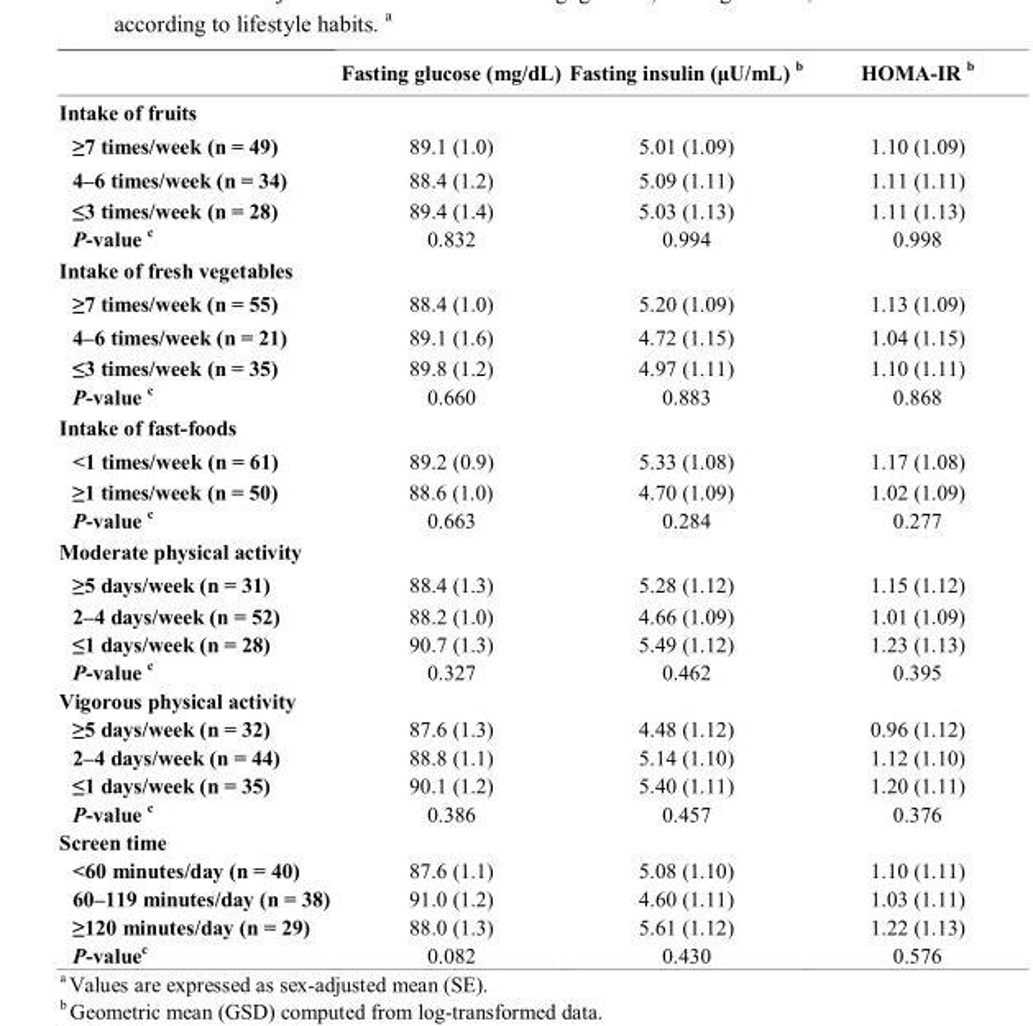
<table><thead><tr><td></td><td>Fasting glucose (mg/dL)</td><td>Fasting insulin (μU/mL) <sup>b</sup></td><td>HOMA-IR <sup>b</sup></td></tr></thead><tbody><tr><td colspan="4">Intake of fruits</td></tr><tr><td>≥7 times/week (n = 49)</td><td>89.1 (1.0)</td><td>5.01 (1.09)</td><td>1.10 (1.09)</td></tr><tr><td>4–6 times/week (n = 34)</td><td>88.4 (1.2)</td><td>5.09 (1.11)</td><td>1.11 (1.11)</td></tr><tr><td>≤3 times/week (n = 28)</td><td>89.4 (1.4)</td><td>5.03 (1.13)</td><td>1.11 (1.13)</td></tr><tr><td>P-value <sup>c</sup></td><td>0.832</td><td>0.994</td><td>0.998</td></tr><tr><td colspan="4">Intake of fresh vegetables</td></tr><tr><td>≥7 times/week (n = 55)</td><td>88.4 (1.0)</td><td>5.20 (1.09)</td><td>1.13 (1.09)</td></tr><tr><td>4–6 times/week (n = 21)</td><td>89.1 (1.6)</td><td>4.72 (1.15)</td><td>1.04 (1.15)</td></tr><tr><td>≤3 times/week (n = 35)</td><td>89.8 (1.2)</td><td>4.97 (1.11)</td><td>1.10 (1.11)</td></tr><tr><td>P-value <sup>c</sup></td><td>0.660</td><td>0.883</td><td>0.868</td></tr><tr><td colspan="4">Intake of fast-foods</td></tr><tr><td>&lt;1 times/week (n = 61)</td><td>89.2 (0.9)</td><td>5.33 (1.08)</td><td>1.17 (1.08)</td></tr><tr><td>≥1 times/week (n = 50)</td><td>88.6 (1.0)</td><td>4.70 (1.09)</td><td>1.02 (1.09)</td></tr><tr><td>P-value <sup>c</sup></td><td>0.663</td><td>0.284</td><td>0.277</td></tr><tr><td colspan="4">Moderate physical activity</td></tr><tr><td>≥5 days/week (n = 31)</td><td>88.4 (1.3)</td><td>5.28 (1.12)</td><td>1.15 (1.12)</td></tr><tr><td>2–4 days/week (n = 52)</td><td>88.2 (1.0)</td><td>4.66 (1.09)</td><td>1.01 (1.09)</td></tr><tr><td>≤1 days/week (n = 28)</td><td>90.7 (1.3)</td><td>5.49 (1.12)</td><td>1.23 (1.13)</td></tr><tr><td>P-value <sup>c</sup></td><td>0.327</td><td>0.462</td><td>0.395</td></tr><tr><td colspan="4">Vigorous physical activity</td></tr><tr><td>≥5 days/week (n = 32)</td><td>87.6 (1.3)</td><td>4.48 (1.12)</td><td>0.96 (1.12)</td></tr><tr><td>2–4 days/week (n = 44)</td><td>88.8 (1.1)</td><td>5.14 (1.10)</td><td>1.12 (1.10)</td></tr><tr><td>≤1 days/week (n = 35)</td><td>90.1 (1.2)</td><td>5.40 (1.11)</td><td>1.20 (1.11)</td></tr><tr><td>P-value <sup>c</sup></td><td>0.386</td><td>0.457</td><td>0.376</td></tr><tr><td colspan="4">Screen time</td></tr><tr><td>&lt;60 minutes/day (n = 40)</td><td>87.6 (1.1)</td><td>5.08 (1.10)</td><td>1.10 (1.11)</td></tr><tr><td>60–119 minutes/day (n = 38)</td><td>91.0 (1.2)</td><td>4.60 (1.11)</td><td>1.03 (1.11)</td></tr><tr><td>≥120 minutes/day (n = 29)</td><td>88.0 (1.3)</td><td>5.61 (1.12)</td><td>1.22 (1.13)</td></tr><tr><td>P-value<sup>c</sup></td><td>0.082</td><td>0.430</td><td>0.576</td></tr></tbody></table>